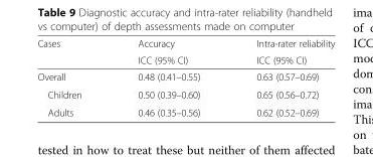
<table><thead><tr><td rowspan="2">Cases</td><td rowspan="2">Accuracy ICC (95% CI)</td><td rowspan="2">Intra-rater reliability ICC (95% CI)</td></tr><tr></tr></thead><tbody><tr><td>Overall</td><td>0.48 (0.41–0.55)</td><td>0.63 (0.57–0.69)</td></tr><tr><td>Children</td><td>0.50 (0.39–0.60)</td><td>0.65 (0.56–0.72)</td></tr><tr><td>Adults</td><td>0.46 (0.35–0.56)</td><td>0.62 (0.52–0.69)</td></tr></tbody></table>